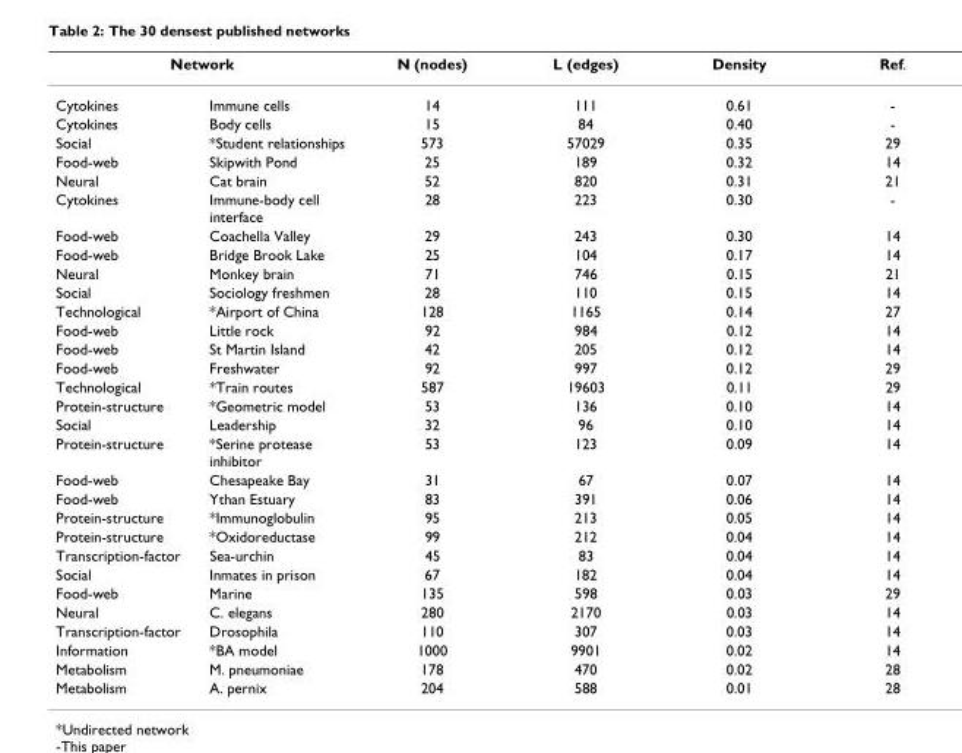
<table><thead><tr><td colspan="2">Network</td><td rowspan="2">N (nodes) 14</td><td rowspan="2">L (edges) 111</td><td rowspan="2">Density 0.61</td><td rowspan="2">Ref. -</td></tr><tr><td>Cytokines</td><td>Immune cells</td></tr></thead><tbody><tr><td>Cytokines</td><td>Body cells</td><td>15</td><td>84</td><td>0.40</td><td>-</td></tr><tr><td>Social</td><td>*Student relationships</td><td>573</td><td>57029</td><td>0.35</td><td>29</td></tr><tr><td>Food-web</td><td>Skipwith Pond</td><td>25</td><td>189</td><td>0.32</td><td>14</td></tr><tr><td>Neural</td><td>Cat brain</td><td>52</td><td>820</td><td>0.31</td><td>21</td></tr><tr><td>Cytokines</td><td>Immune-body cell interface</td><td>28</td><td>223</td><td>0.30</td><td>-</td></tr><tr><td>Food-web</td><td>Coachella Valley</td><td>29</td><td>243</td><td>0.30</td><td>14</td></tr><tr><td>Food-web</td><td>Bridge Brook Lake</td><td>25</td><td>104</td><td>0.17</td><td>14</td></tr><tr><td>Neural</td><td>Monkey brain</td><td>71</td><td>746</td><td>0.15</td><td>21</td></tr><tr><td>Social</td><td>Sociology freshmen</td><td>28</td><td>110</td><td>0.15</td><td>14</td></tr><tr><td>Technological</td><td>*Airport of China</td><td>128</td><td>1165</td><td>0.14</td><td>27</td></tr><tr><td>Food-web</td><td>Little rock</td><td>92</td><td>984</td><td>0.12</td><td>14</td></tr><tr><td>Food-web</td><td>St Martin Island</td><td>42</td><td>205</td><td>0.12</td><td>14</td></tr><tr><td>Food-web</td><td>Freshwater</td><td>92</td><td>997</td><td>0.12</td><td>29</td></tr><tr><td>Technological</td><td>*Train routes</td><td>587</td><td>19603</td><td>0.11</td><td>29</td></tr><tr><td>Protein-structure</td><td>*Geometric model</td><td>53</td><td>136</td><td>0.10</td><td>14</td></tr><tr><td>Social</td><td>Leadership</td><td>32</td><td>96</td><td>0.10</td><td>14</td></tr><tr><td>Protein-structure</td><td>*Serine protease inhibitor</td><td>53</td><td>123</td><td>0.09</td><td>14</td></tr><tr><td>Food-web</td><td>Chesapeake Bay</td><td>31</td><td>67</td><td>0.07</td><td>14</td></tr><tr><td>Food-web</td><td>Ythan Estuary</td><td>83</td><td>391</td><td>0.06</td><td>14</td></tr><tr><td>Protein-structure</td><td>*Immunoglobulin</td><td>95</td><td>213</td><td>0.05</td><td>14</td></tr><tr><td>Protein-structure</td><td>*Oxidoreductase</td><td>99</td><td>212</td><td>0.04</td><td>14</td></tr><tr><td>Transcription-factor</td><td>Sea-urchin</td><td>45</td><td>83</td><td>0.04</td><td>14</td></tr><tr><td>Social</td><td>Inmates in prison</td><td>67</td><td>182</td><td>0.04</td><td>14</td></tr><tr><td>Food-web</td><td>Marine</td><td>135</td><td>598</td><td>0.03</td><td>29</td></tr><tr><td>Neural</td><td>C. elegans</td><td>280</td><td>2170</td><td>0.03</td><td>14</td></tr><tr><td>Transcription-factor</td><td>Drosophila</td><td>110</td><td>307</td><td>0.03</td><td>14</td></tr><tr><td>Information</td><td>*BA model</td><td>1000</td><td>9901</td><td>0.02</td><td>14</td></tr><tr><td>Metabolism</td><td>M. pneumoniae</td><td>178</td><td>470</td><td>0.02</td><td>28</td></tr><tr><td>Metabolism</td><td>A. pernix</td><td>204</td><td>588</td><td>0.01</td><td>28</td></tr></tbody></table>